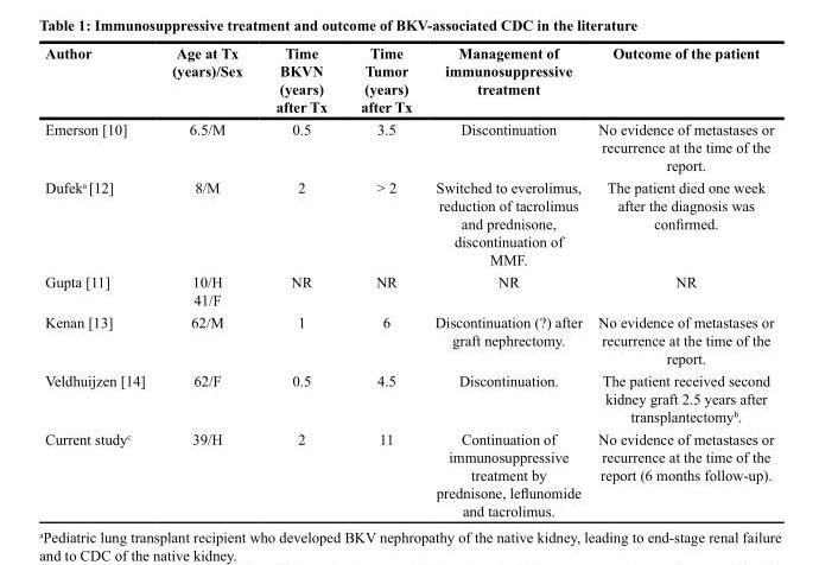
<table><thead><tr><td>Author</td><td>Age at Tx (years)/Sex</td><td>Time BKVN (years) after Tx</td><td>Time Tumor (years) after Tx</td><td>Management of immunosuppressive treatment</td><td>Outcome of the patient</td></tr></thead><tbody><tr><td>Emerson [10]</td><td>6.5/M</td><td>0.5</td><td>3.5</td><td>Discontinuation</td><td>No evidence of metastases or recurrence at the time of the report.</td></tr><tr><td>Dufek<sup>a</sup> [12]</td><td>8/M</td><td>2</td><td>&gt; 2</td><td>Switched to everolimus, reduction of tacrolimus and prednisone, discontinuation of MMF.</td><td>The patient died one week after the diagnosis was confirmed.</td></tr><tr><td>Gupta [11]</td><td>10/H 41/F</td><td>NR</td><td>NR</td><td>NR</td><td>NR</td></tr><tr><td>Kenan [13]</td><td>62/M</td><td>1</td><td>6</td><td>Discontinuation (?) after graft nephrectomy.</td><td>No evidence of metastases or recurrence at the time of the report.</td></tr><tr><td>Veldhuijzen [14]</td><td>62/F</td><td>0.5</td><td>4.5</td><td>Discontinuation.</td><td>The patient received second kidney graft 2.5 years after transplantectomy<sup>b</sup>.</td></tr><tr><td>Current study<sup>c</sup></td><td>39/H</td><td>2</td><td>11</td><td>Continuation of immunosuppressive treatment by prednisone, leflunomide and tacrolimus.</td><td>No evidence of metastases or recurrence at the time of the report (6 months follow-up).</td></tr></tbody></table>